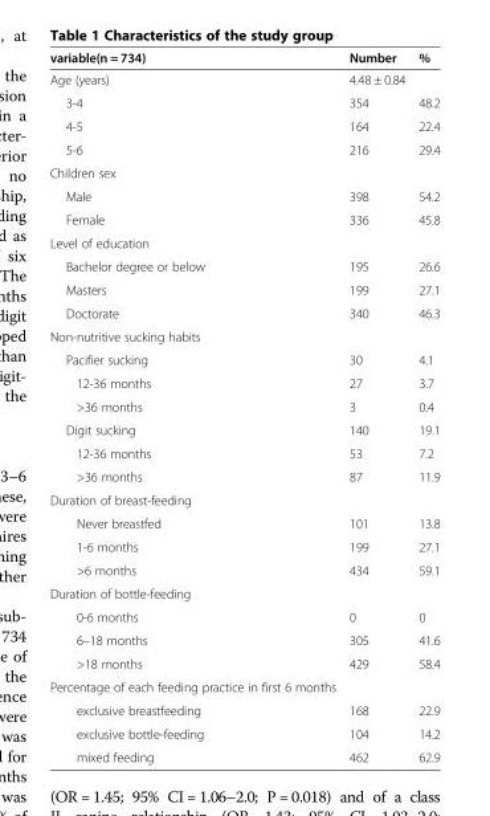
<table><thead><tr><td>variable(n = 734)</td><td>Number</td><td>%</td></tr></thead><tbody><tr><td>Age (years)</td><td>4.48 ± 0.84</td><td></td></tr><tr><td>3-4</td><td>354</td><td>48.2</td></tr><tr><td>4-5</td><td>164</td><td>22.4</td></tr><tr><td>5-6</td><td>216</td><td>29.4</td></tr><tr><td colspan="3">Children sex</td></tr><tr><td>Male</td><td>398</td><td>54.2</td></tr><tr><td>Female</td><td>336</td><td>45.8</td></tr><tr><td colspan="3">Level of education</td></tr><tr><td>Bachelor degree or below</td><td>195</td><td>26.6</td></tr><tr><td>Masters</td><td>199</td><td>27.1</td></tr><tr><td>Doctorate</td><td>340</td><td>46.3</td></tr><tr><td colspan="3">Non-nutritive sucking habits</td></tr><tr><td>Pacifier sucking</td><td>30</td><td>4.1</td></tr><tr><td>12-36 months</td><td>27</td><td>3.7</td></tr><tr><td>&gt;36 months</td><td>3</td><td>0.4</td></tr><tr><td>Digit sucking</td><td>140</td><td>19.1</td></tr><tr><td>12-36 months</td><td>53</td><td>7.2</td></tr><tr><td>&gt;36 months</td><td>87</td><td>11.9</td></tr><tr><td colspan="3">Duration of breast-feeding</td></tr><tr><td>Never breastfed</td><td>101</td><td>13.8</td></tr><tr><td>1-6 months</td><td>199</td><td>27.1</td></tr><tr><td>&gt;6 months</td><td>434</td><td>59.1</td></tr><tr><td colspan="3">Duration of bottle-feeding</td></tr><tr><td>0-6 months</td><td>0</td><td>0</td></tr><tr><td>6–18 months</td><td>305</td><td>41.6</td></tr><tr><td>&gt;18 months</td><td>429</td><td>58.4</td></tr><tr><td colspan="3">Percentage of each feeding practice in first 6 months</td></tr><tr><td>exclusive breastfeeding</td><td>168</td><td>22.9</td></tr><tr><td>exclusive bottle-feeding</td><td>104</td><td>14.2</td></tr><tr><td>mixed feeding</td><td>462</td><td>62.9</td></tr></tbody></table>